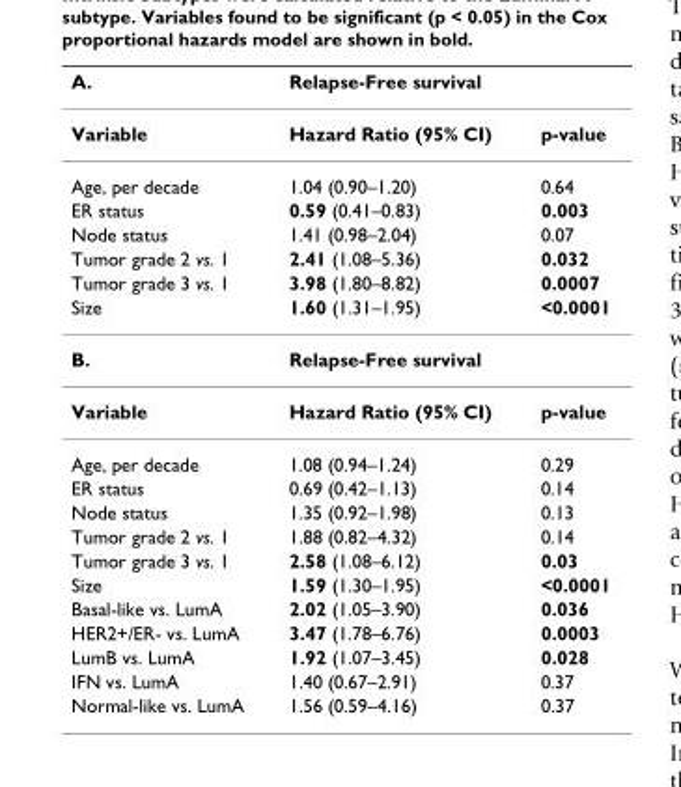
<table><thead><tr><td rowspan="2">A. Variable</td><td colspan="2">Relapse-Free survival</td></tr><tr><td>Hazard Ratio (95% CI)</td><td>p-value</td></tr></thead><tbody><tr><td>Age, per decade</td><td>1.04 (0.90–1.20)</td><td>0.64</td></tr><tr><td>ER status</td><td>0.59 (0.41–0.83)</td><td>0.003</td></tr><tr><td>Node status</td><td>1.41 (0.98–2.04)</td><td>0.07</td></tr><tr><td>Tumor grade 2 vs. 1</td><td>2.41 (1.08–5.36)</td><td>0.032</td></tr><tr><td>Tumor grade 3 vs. 1</td><td>3.98 (1.80–8.82)</td><td>0.0007</td></tr><tr><td>Size</td><td>1.60 (1.31–1.95)</td><td>&lt;0.0001</td></tr><tr><td>B.</td><td colspan="2">Relapse-Free survival</td></tr><tr><td>Variable</td><td>Hazard Ratio (95% CI)</td><td>p-value</td></tr><tr><td>Age, per decade</td><td>1.08 (0.94–1.24)</td><td>0.29</td></tr><tr><td>ER status</td><td>0.69 (0.42–1.13)</td><td>0.14</td></tr><tr><td>Node status</td><td>1.35 (0.92–1.98)</td><td>0.13</td></tr><tr><td>Tumor grade 2 vs. 1</td><td>1.88 (0.82–4.32)</td><td>0.14</td></tr><tr><td>Tumor grade 3 vs. 1</td><td>2.58 (1.08–6.12)</td><td>0.03</td></tr><tr><td>Size</td><td>1.59 (1.30–1.95)</td><td>&lt;0.0001</td></tr><tr><td>Basal-like vs. LumA</td><td>2.02 (1.05–3.90)</td><td>0.036</td></tr><tr><td>HER2+/ER- vs. LumA</td><td>3.47 (1.78–6.76)</td><td>0.0003</td></tr><tr><td>LumB vs. LumA</td><td>1.92 (1.07–3.45)</td><td>0.028</td></tr><tr><td>IFN vs. LumA</td><td>1.40 (0.67–2.91)</td><td>0.37</td></tr><tr><td>Normal-like vs. LumA</td><td>1.56 (0.59–4.16)</td><td>0.37</td></tr></tbody></table>